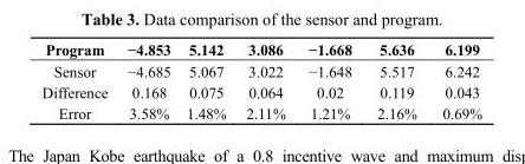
<table><thead><tr><td>Program</td><td>−4.853</td><td>5.142</td><td>3.086</td><td>−1.668</td><td>5.636</td><td>6.199</td></tr></thead><tbody><tr><td>Sensor</td><td>−4.685</td><td>5.067</td><td>3.022</td><td>−1.648</td><td>5.517</td><td>6.242</td></tr><tr><td>Difference</td><td>0.168</td><td>0.075</td><td>0.064</td><td>0.02</td><td>0.119</td><td>0.043</td></tr><tr><td>Error</td><td>3.58%</td><td>1.48%</td><td>2.11%</td><td>1.21%</td><td>2.16%</td><td>0.69%</td></tr></tbody></table>